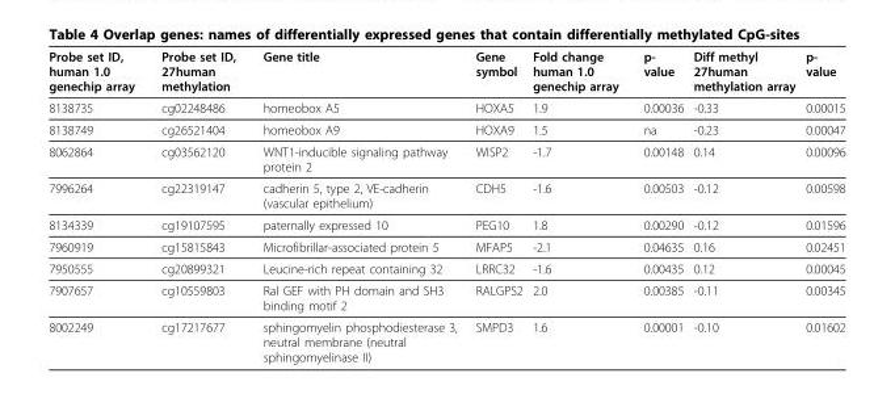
<table><thead><tr><td>Probe set ID, human 1.0 genechip array</td><td>Probe set ID, 27human methylation</td><td>Gene title</td><td>Gene symbol</td><td>Fold change human 1.0 genechip array</td><td>p- value</td><td>Diff methyl 27human methylation array</td><td>p- value</td></tr></thead><tbody><tr><td>8138735</td><td>cg02248486</td><td>homeobox A5</td><td>HOXA5</td><td>1.9</td><td>0.00036</td><td>-0.33</td><td>0.00015</td></tr><tr><td>8138749</td><td>cg26521404</td><td>homeobox A9</td><td>HOXA9</td><td>1.5</td><td>na</td><td>-0.23</td><td>0.00047</td></tr><tr><td>8062864</td><td>cg03562120</td><td>WNT1-inducible signaling pathway protein 2</td><td>WISP2</td><td>-1.7</td><td>0.00148</td><td>0.14</td><td>0.00096</td></tr><tr><td>7996264</td><td>cg22319147</td><td>cadherin 5, type 2, VE-cadherin (vascular epithelium)</td><td>CDH5</td><td>-1.6</td><td>0.00503</td><td>-0.12</td><td>0.00598</td></tr><tr><td>8134339</td><td>cg19107595</td><td>paternally expressed 10</td><td>PEG10</td><td>1.8</td><td>0.00290</td><td>-0.12</td><td>0.01596</td></tr><tr><td>7960919</td><td>cg15815843</td><td>Microfibrillar-associated protein 5</td><td>MFAP5</td><td>-2.1</td><td>0.04635</td><td>0.16</td><td>0.02451</td></tr><tr><td>7950555</td><td>cg20899321</td><td>Leucine-rich repeat containing 32</td><td>LRRC32</td><td>-1.6</td><td>0.00435</td><td>0.12</td><td>0.00045</td></tr><tr><td>7907657</td><td>cg10559803</td><td>Ral GEF with PH domain and SH3 binding motif 2</td><td>RALGPS2</td><td>2.0</td><td>0.00385</td><td>-0.11</td><td>0.00345</td></tr><tr><td>8002249</td><td>cg17217677</td><td>sphingomyelin phosphodiesterase 3, neutral membrane (neutral sphingomyelinase II)</td><td>SMPD3</td><td>1.6</td><td>0.00001</td><td>-0.10</td><td>0.01602</td></tr></tbody></table>